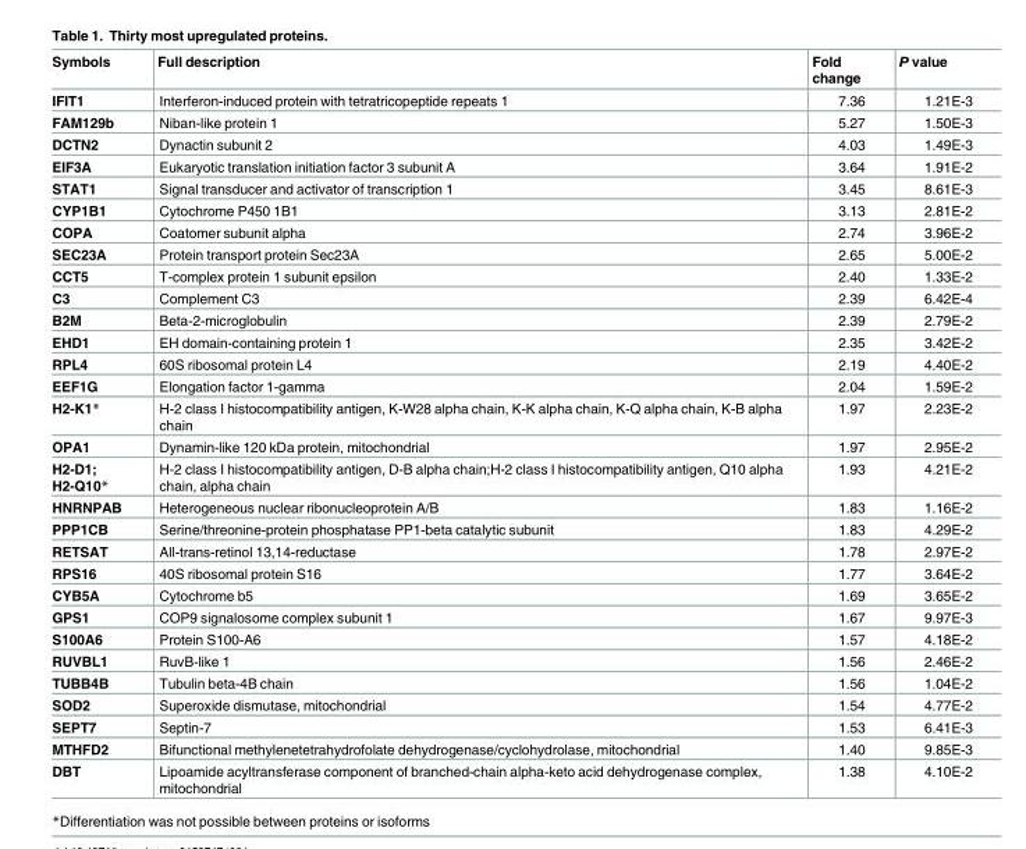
<table><thead><tr><td>Symbols</td><td>Full description</td><td>Fold change</td><td>P value</td></tr></thead><tbody><tr><td>IFIT1</td><td>Interferon-induced protein with tetratricopeptide repeats 1</td><td>7.36</td><td>1.21E-3</td></tr><tr><td>FAM129b</td><td>Niban-like protein 1</td><td>5.27</td><td>1.50E-3</td></tr><tr><td>DCTN2</td><td>Dynactin subunit 2</td><td>4.03</td><td>1.49E-3</td></tr><tr><td>EIF3A</td><td>Eukaryotic translation initiation factor 3 subunit A</td><td>3.64</td><td>1.91E-2</td></tr><tr><td>STAT1</td><td>Signal transducer and activator of transcription 1</td><td>3.45</td><td>8.61E-3</td></tr><tr><td>CYP1B1</td><td>Cytochrome P450 1B1</td><td>3.13</td><td>2.81E-2</td></tr><tr><td>COPA</td><td>Coatomer subunit alpha</td><td>2.74</td><td>3.96E-2</td></tr><tr><td>SEC23A</td><td>Protein transport protein Sec23A</td><td>2.65</td><td>5.00E-2</td></tr><tr><td>CCT5</td><td>T-complex protein 1 subunit epsilon</td><td>2.40</td><td>1.33E-2</td></tr><tr><td>C3</td><td>Complement C3</td><td>2.39</td><td>6.42E-4</td></tr><tr><td>B2M</td><td>Beta-2-microglobulin</td><td>2.39</td><td>2.79E-2</td></tr><tr><td>EHD1</td><td>EH domain-containing protein 1</td><td>2.35</td><td>3.42E-2</td></tr><tr><td>RPL4</td><td>60S ribosomal protein L4</td><td>2.19</td><td>4.40E-2</td></tr><tr><td>EEF1G</td><td>Elongation factor 1-gamma</td><td>2.04</td><td>1.59E-2</td></tr><tr><td>H2-K1*</td><td>H-2 class I histocompatibility antigen, K-W28 alpha chain, K-K alpha chain, K-Q alpha chain, K-B alpha chain</td><td>1.97</td><td>2.23E-2</td></tr><tr><td>OPA1</td><td>Dynamin-like 120 kDa protein, mitochondrial</td><td>1.97</td><td>2.95E-2</td></tr><tr><td>H2-D1; H2-Q10*</td><td>H-2 class I histocompatibility antigen, D-B alpha chain;H-2 class I histocompatibility antigen, Q10 alpha chain, alpha chain</td><td>1.93</td><td>4.21E-2</td></tr><tr><td>HNRNPAB</td><td>Heterogeneous nuclear ribonucleoprotein A/B</td><td>1.83</td><td>1.16E-2</td></tr><tr><td>PPP1CB</td><td>Serine/threonine-protein phosphatase PP1-beta catalytic subunit</td><td>1.83</td><td>4.29E-2</td></tr><tr><td>RETSAT</td><td>All-trans-retinol 13,14-reductase</td><td>1.78</td><td>2.97E-2</td></tr><tr><td>RPS16</td><td>40S ribosomal protein S16</td><td>1.77</td><td>3.64E-2</td></tr><tr><td>CYB5A</td><td>Cytochrome b5</td><td>1.69</td><td>3.65E-2</td></tr><tr><td>GPS1</td><td>COP9 signalosome complex subunit 1</td><td>1.67</td><td>9.97E-3</td></tr><tr><td>S100A6</td><td>Protein S100-A6</td><td>1.57</td><td>4.18E-2</td></tr><tr><td>RUVBL1</td><td>RuvB-like 1</td><td>1.56</td><td>2.46E-2</td></tr><tr><td>TUBB4B</td><td>Tubulin beta-4B chain</td><td>1.56</td><td>1.04E-2</td></tr><tr><td>SOD2</td><td>Superoxide dismutase, mitochondrial</td><td>1.54</td><td>4.77E-2</td></tr><tr><td>SEPT7</td><td>Septin-7</td><td>1.53</td><td>6.41E-3</td></tr><tr><td>MTHFD2</td><td>Bifunctional methylenetetrahydrofolate dehydrogenase/cyclohydrolase, mitochondrial</td><td>1.40</td><td>9.85E-3</td></tr><tr><td>DBT</td><td>Lipoamide acyltransferase component of branched-chain alpha-keto acid dehydrogenase complex, mitochondrial</td><td>1.38</td><td>4.10E-2</td></tr></tbody></table>